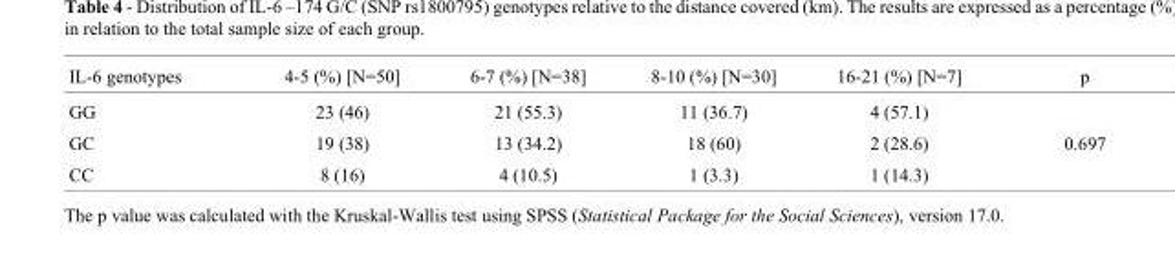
<table><thead><tr><td>IL-6 genotypes</td><td>4-5 (%) [N=50]</td><td>6-7 (%) [N=38]</td><td>8-10 (%) [N=30]</td><td>16-21 (%) [N=7]</td><td>p</td></tr></thead><tbody><tr><td>GG</td><td>23 (46)</td><td>21 (55.3)</td><td>11 (36.7)</td><td>4 (57.1)</td><td></td></tr><tr><td>GC</td><td>19 (38)</td><td>13 (34.2)</td><td>18 (60)</td><td>2 (28.6)</td><td>0.697</td></tr><tr><td>CC</td><td>8 (16)</td><td>4 (10.5)</td><td>1 (3.3)</td><td>1 (14.3)</td><td></td></tr></tbody></table>